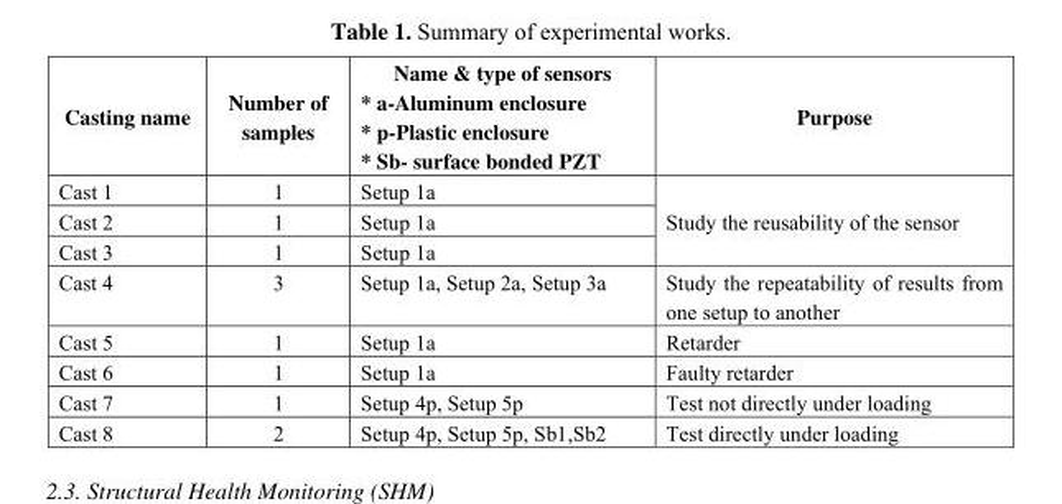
<table><thead><tr><td>Casting name</td><td>Number of samples</td><td>Name &amp; type of sensors * a-Aluminum enclosure * p-Plastic enclosure * Sb- surface bonded PZT</td><td>Purpose</td></tr></thead><tbody><tr><td>Cast 1</td><td>1</td><td>Setup 1a</td><td rowspan="3">Study the reusability of the sensor</td></tr><tr><td>Cast 2</td><td>1</td><td>Setup 1a</td></tr><tr><td>Cast 3</td><td>1</td><td>Setup 1a</td></tr><tr><td>Cast 4</td><td>3</td><td>Setup 1a, Setup 2a, Setup 3a</td><td>Study the repeatability of results from one setup to another</td></tr><tr><td>Cast 5</td><td>1</td><td>Setup 1a</td><td>Retarder</td></tr><tr><td>Cast 6</td><td>1</td><td>Setup 1a</td><td>Faulty retarder</td></tr><tr><td>Cast 7</td><td>1</td><td>Setup 4p, Setup 5p</td><td>Test not directly under loading</td></tr><tr><td>Cast 8</td><td>2</td><td>Setup 4p, Setup 5p, Sb1,Sb2</td><td>Test directly under loading</td></tr></tbody></table>